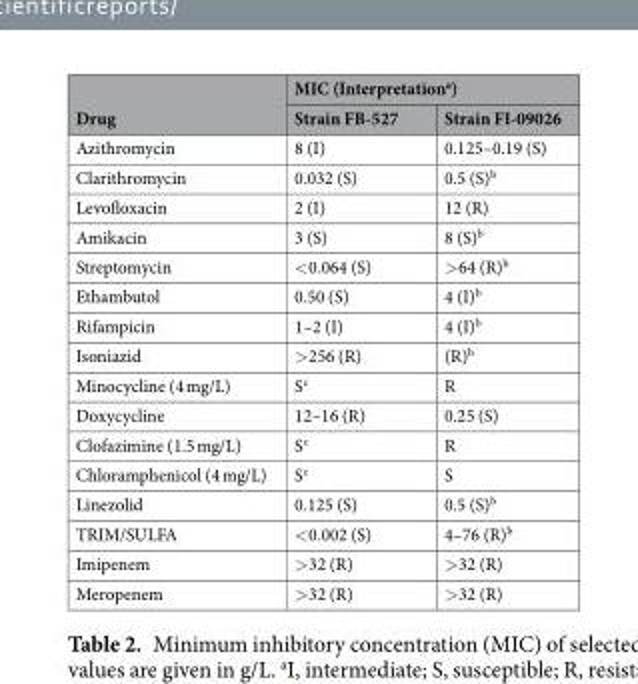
<table><thead><tr><td rowspan="2">Drug</td><td colspan="2">MIC (Interpretationa)</td></tr><tr><td>Strain FB-527</td><td>Strain FI-09026</td></tr></thead><tbody><tr><td>Azithromycin</td><td>8 (I)</td><td>0.125–0.19 (S)</td></tr><tr><td>Clarithromycin</td><td>0.032 (S)</td><td>0.5 (S)b</td></tr><tr><td>Levofloxacin</td><td>2 (I)</td><td>12 (R)</td></tr><tr><td>Amikacin</td><td>3 (S)</td><td>8 (S)b</td></tr><tr><td>Streptomycin</td><td>&lt;0.064 (S)</td><td>&gt;64 (R)b</td></tr><tr><td>Ethambutol</td><td>0.50 (S)</td><td>4 (I)b</td></tr><tr><td>Rifampicin</td><td>1–2 (I)</td><td>4 (I)b</td></tr><tr><td>Isoniazid</td><td>&gt;256 (R)</td><td>(R)b</td></tr><tr><td>Minocycline (4 mg/L)</td><td>Sc</td><td>R</td></tr><tr><td>Doxycycline</td><td>12–16 (R)</td><td>0.25 (S)</td></tr><tr><td>Clofazimine (1.5 mg/L)</td><td>Sc</td><td>R</td></tr><tr><td>Chloramphenicol (4 mg/L)</td><td>Sc</td><td>S</td></tr><tr><td>Linezolid</td><td>0.125 (S)</td><td>0.5 (S)b</td></tr><tr><td>TRIM/SULFA</td><td>&lt;0.002 (S)</td><td>4–76 (R)b</td></tr><tr><td>Imipenem</td><td>&gt;32 (R)</td><td>&gt;32 (R)</td></tr><tr><td>Meropenem</td><td>&gt;32 (R)</td><td>&gt;32 (R)</td></tr></tbody></table>